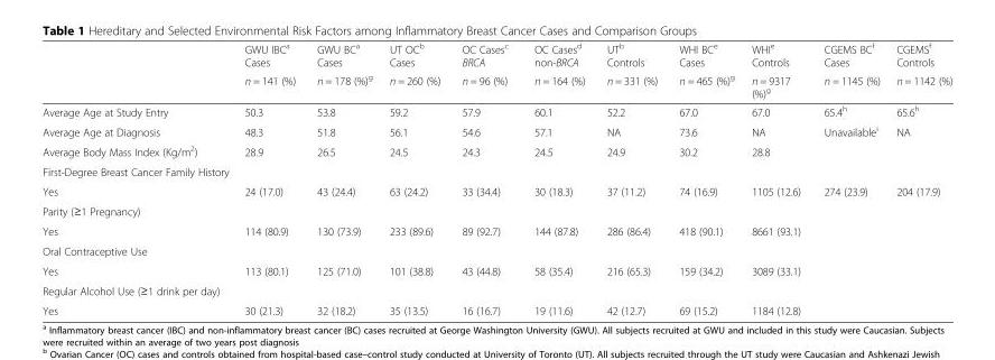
<table><thead><tr><td rowspan="2"></td><td rowspan="2">GWU IBC<sup>a</sup> Cases n = 141 (%)</td><td rowspan="2">GWU BC<sup>a</sup> Cases n = 178 (%)<sup>g</sup></td><td rowspan="2">UT OC<sup>b</sup> Cases n = 260 (%)</td><td rowspan="2">OC Cases<sup>c</sup> BRCA n = 96 (%)</td><td rowspan="2">OC Cases<sup>d</sup> non-BRCA n = 164 (%)</td><td rowspan="2">UT<sup>b</sup> Controls n = 331 (%)</td><td rowspan="2">WHI BC<sup>e</sup> Cases n = 465 (%)<sup>g</sup></td><td rowspan="2">WHI<sup>e</sup> Controls n = 9317 (%)<sup>g</sup></td><td rowspan="2">CGEMS BC<sup>f</sup> Cases n = 1145 (%)</td><td rowspan="2">CGEMS<sup>f</sup> Controls n = 1142 (%)</td></tr><tr></tr></thead><tbody><tr><td>Average Age at Study Entry</td><td>50.3</td><td>53.8</td><td>59.2</td><td>57.9</td><td>60.1</td><td>52.2</td><td>67.0</td><td>67.0</td><td>65.4<sup>h</sup></td><td>65.6<sup>h</sup></td></tr><tr><td>Average Age at Diagnosis</td><td>48.3</td><td>51.8</td><td>56.1</td><td>54.6</td><td>57.1</td><td>NA</td><td>73.6</td><td>NA</td><td>Unavailable<sup>i</sup></td><td>NA</td></tr><tr><td>Average Body Mass Index (Kg/m<sup>2</sup>)</td><td>28.9</td><td>26.5</td><td>24.5</td><td>24.3</td><td>24.5</td><td>24.9</td><td>30.2</td><td>28.8</td><td></td><td></td></tr><tr><td colspan="11">First-Degree Breast Cancer Family History</td></tr><tr><td>Yes</td><td>24 (17.0)</td><td>43 (24.4)</td><td>63 (24.2)</td><td>33 (34.4)</td><td>30 (18.3)</td><td>37 (11.2)</td><td>74 (16.9)</td><td>1105 (12.6)</td><td>274 (23.9)</td><td>204 (17.9)</td></tr><tr><td colspan="11">Parity (≥1 Pregnancy)</td></tr><tr><td>Yes</td><td>114 (80.9)</td><td>130 (73.9)</td><td>233 (89.6)</td><td>89 (92.7)</td><td>144 (87.8)</td><td>286 (86.4)</td><td>418 (90.1)</td><td>8661 (93.1)</td><td></td><td></td></tr><tr><td colspan="11">Oral Contraceptive Use</td></tr><tr><td>Yes</td><td>113 (80.1)</td><td>125 (71.0)</td><td>101 (38.8)</td><td>43 (44.8)</td><td>58 (35.4)</td><td>216 (65.3)</td><td>159 (34.2)</td><td>3089 (33.1)</td><td></td><td></td></tr><tr><td colspan="11">Regular Alcohol Use (≥1 drink per day)</td></tr><tr><td>Yes</td><td>30 (21.3)</td><td>32 (18.2)</td><td>35 (13.5)</td><td>16 (16.7)</td><td>19 (11.6)</td><td>42 (12.7)</td><td>69 (15.2)</td><td>1184 (12.8)</td><td></td><td></td></tr></tbody></table>